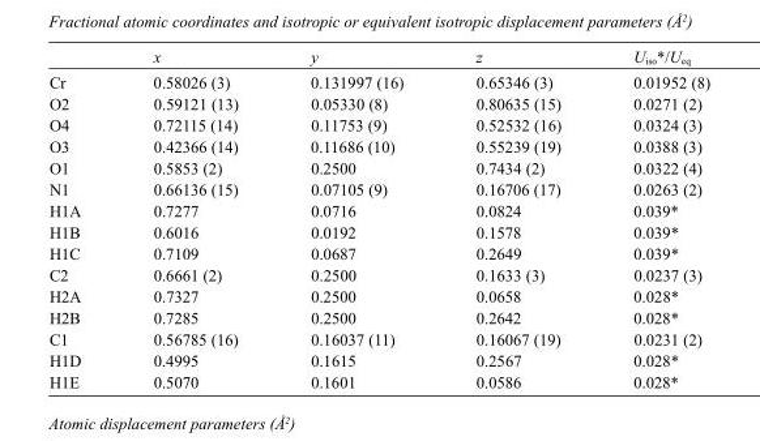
<table><thead><tr><td></td><td>x</td><td>y</td><td>z</td><td>U<sub>iso</sub>*/U<sub>eq</sub></td></tr></thead><tbody><tr><td>Cr</td><td>0.58026 (3)</td><td>0.131997 (16)</td><td>0.65346 (3)</td><td>0.01952 (8)</td></tr><tr><td>O2</td><td>0.59121 (13)</td><td>0.05330 (8)</td><td>0.80635 (15)</td><td>0.0271 (2)</td></tr><tr><td>O4</td><td>0.72115 (14)</td><td>0.11753 (9)</td><td>0.52532 (16)</td><td>0.0324 (3)</td></tr><tr><td>O3</td><td>0.42366 (14)</td><td>0.11686 (10)</td><td>0.55239 (19)</td><td>0.0388 (3)</td></tr><tr><td>O1</td><td>0.5853 (2)</td><td>0.2500</td><td>0.7434 (2)</td><td>0.0322 (4)</td></tr><tr><td>N1</td><td>0.66136 (15)</td><td>0.07105 (9)</td><td>0.16706 (17)</td><td>0.0263 (2)</td></tr><tr><td>H1A</td><td>0.7277</td><td>0.0716</td><td>0.0824</td><td>0.039*</td></tr><tr><td>H1B</td><td>0.6016</td><td>0.0192</td><td>0.1578</td><td>0.039*</td></tr><tr><td>H1C</td><td>0.7109</td><td>0.0687</td><td>0.2649</td><td>0.039*</td></tr><tr><td>C2</td><td>0.6661 (2)</td><td>0.2500</td><td>0.1633 (3)</td><td>0.0237 (3)</td></tr><tr><td>H2A</td><td>0.7327</td><td>0.2500</td><td>0.0658</td><td>0.028*</td></tr><tr><td>H2B</td><td>0.7285</td><td>0.2500</td><td>0.2642</td><td>0.028*</td></tr><tr><td>C1</td><td>0.56785 (16)</td><td>0.16037 (11)</td><td>0.16067 (19)</td><td>0.0231 (2)</td></tr><tr><td>H1D</td><td>0.4995</td><td>0.1615</td><td>0.2567</td><td>0.028*</td></tr><tr><td>H1E</td><td>0.5070</td><td>0.1601</td><td>0.0586</td><td>0.028*</td></tr></tbody></table>